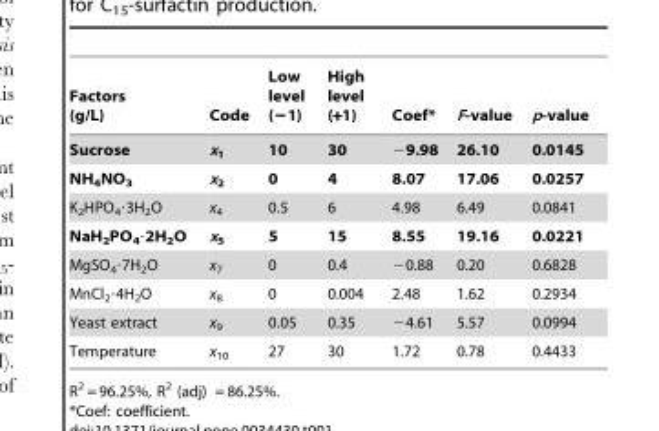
<table><thead><tr><td>Factors (g/L)</td><td>Code</td><td>Low level (−1)</td><td>High level (+1)</td><td>Coef*</td><td>F-value</td><td>p-value</td></tr></thead><tbody><tr><td>Sucrose</td><td>x<sub>1</sub></td><td>10</td><td>30</td><td>−9.98</td><td>26.10</td><td>0.0145</td></tr><tr><td>NH<sub>4</sub>NO<sub>3</sub></td><td>x<sub>2</sub></td><td>0</td><td>4</td><td>8.07</td><td>17.06</td><td>0.0257</td></tr><tr><td>K<sub>2</sub>HPO<sub>4</sub>·3H<sub>2</sub>O</td><td>x<sub>4</sub></td><td>0.5</td><td>6</td><td>4.98</td><td>6.49</td><td>0.0841</td></tr><tr><td>NaH<sub>2</sub>PO<sub>4</sub>·2H<sub>2</sub>O</td><td>x<sub>5</sub></td><td>5</td><td>15</td><td>8.55</td><td>19.16</td><td>0.0221</td></tr><tr><td>MgSO<sub>4</sub>·7H<sub>2</sub>O</td><td>x<sub>7</sub></td><td>0</td><td>0.4</td><td>−0.88</td><td>0.20</td><td>0.6828</td></tr><tr><td>MnCl<sub>2</sub>·4H<sub>2</sub>O</td><td>x<sub>8</sub></td><td>0</td><td>0.004</td><td>2.48</td><td>1.62</td><td>0.2934</td></tr><tr><td>Yeast extract</td><td>x<sub>9</sub></td><td>0.05</td><td>0.35</td><td>−4.61</td><td>5.57</td><td>0.0994</td></tr><tr><td>Temperature</td><td>x<sub>10</sub></td><td>27</td><td>30</td><td>1.72</td><td>0.78</td><td>0.4433</td></tr></tbody></table>